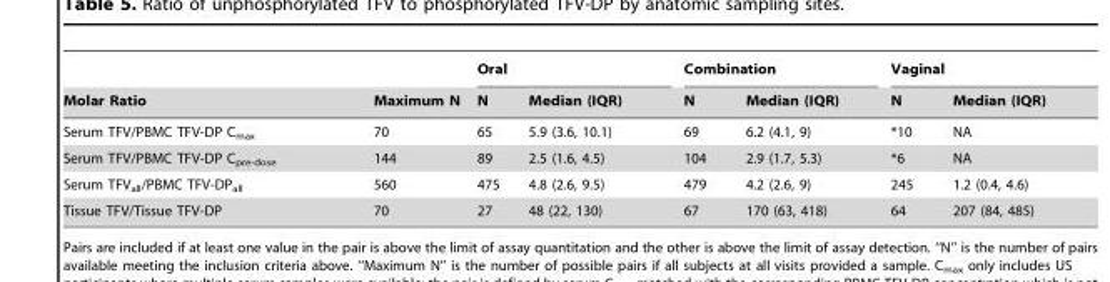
<table><thead><tr><td rowspan="2">Molar Ratio</td><td rowspan="2">Maximum N</td><td colspan="2">Oral</td><td colspan="2">Combination</td><td colspan="2">Vaginal</td></tr><tr><td>N</td><td>Median (IQR)</td><td>N</td><td>Median (IQR)</td><td>N</td><td>Median (IQR)</td></tr></thead><tbody><tr><td>Serum TFV/PBMC TFV-DP C<sub>max</sub></td><td>70</td><td>65</td><td>5.9 (3.6, 10.1)</td><td>69</td><td>6.2 (4.1, 9)</td><td>*10</td><td>NA</td></tr><tr><td>Serum TFV/PBMC TFV-DP C<sub>pre-dose</sub></td><td>144</td><td>89</td><td>2.5 (1.6, 4.5)</td><td>104</td><td>2.9 (1.7, 5.3)</td><td>*6</td><td>NA</td></tr><tr><td>Serum TFV<sub>all</sub>/PBMC TFV-DP<sub>all</sub></td><td>560</td><td>475</td><td>4.8 (2.6, 9.5)</td><td>479</td><td>4.2 (2.6, 9)</td><td>245</td><td>1.2 (0.4, 4.6)</td></tr><tr><td>Tissue TFV/Tissue TFV-DP</td><td>70</td><td>27</td><td>48 (22, 130)</td><td>67</td><td>170 (63, 418)</td><td>64</td><td>207 (84, 485)</td></tr></tbody></table>